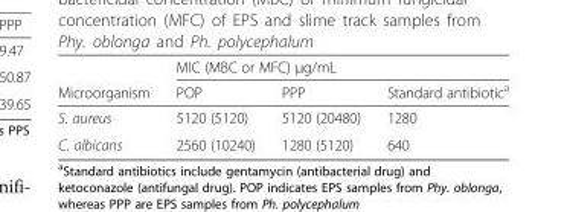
<table><thead><tr><td rowspan="2">Microorganism</td><td colspan="3">MIC (MBC or MFC) μg/mL</td></tr><tr><td>POP</td><td>PPP</td><td>Standard antibiotic<sup>a</sup></td></tr></thead><tbody><tr><td>S. aureus</td><td>5120 (5120)</td><td>5120 (20480)</td><td>1280</td></tr><tr><td>C. albicans</td><td>2560 (10240)</td><td>1280 (5120)</td><td>640</td></tr></tbody></table>